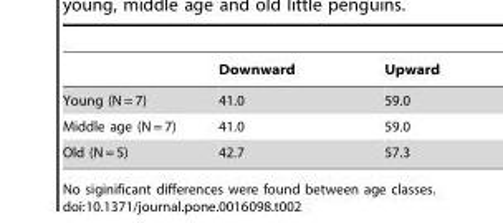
<table><thead><tr><td></td><td>Downward</td><td>Upward</td></tr></thead><tbody><tr><td>Young (N = 7)</td><td>41.0</td><td>59.0</td></tr><tr><td>Middle age (N = 7)</td><td>41.0</td><td>59.0</td></tr><tr><td>Old (N = 5)</td><td>42.7</td><td>57.3</td></tr></tbody></table>